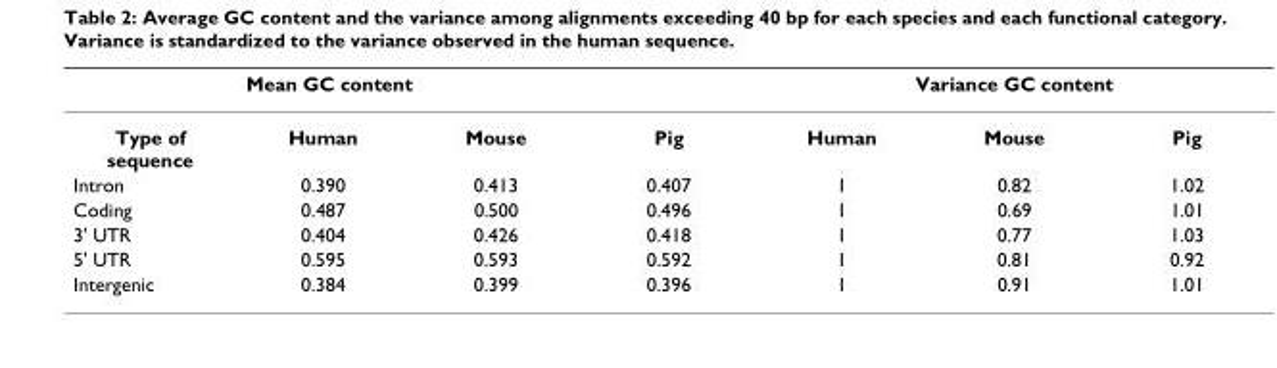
<table><thead><tr><td rowspan="2">Type of sequence</td><td colspan="3">Mean GC content</td><td colspan="3">Variance GC content</td></tr><tr><td>Human</td><td>Mouse</td><td>Pig</td><td>Human</td><td>Mouse</td><td>Pig</td></tr></thead><tbody><tr><td>Intron</td><td>0.390</td><td>0.413</td><td>0.407</td><td>1</td><td>0.82</td><td>1.02</td></tr><tr><td>Coding</td><td>0.487</td><td>0.500</td><td>0.496</td><td>1</td><td>0.69</td><td>1.01</td></tr><tr><td>3&#x27; UTR</td><td>0.404</td><td>0.426</td><td>0.418</td><td>1</td><td>0.77</td><td>1.03</td></tr><tr><td>5&#x27; UTR</td><td>0.595</td><td>0.593</td><td>0.592</td><td>1</td><td>0.81</td><td>0.92</td></tr><tr><td>Intergenic</td><td>0.384</td><td>0.399</td><td>0.396</td><td>1</td><td>0.91</td><td>1.01</td></tr></tbody></table>